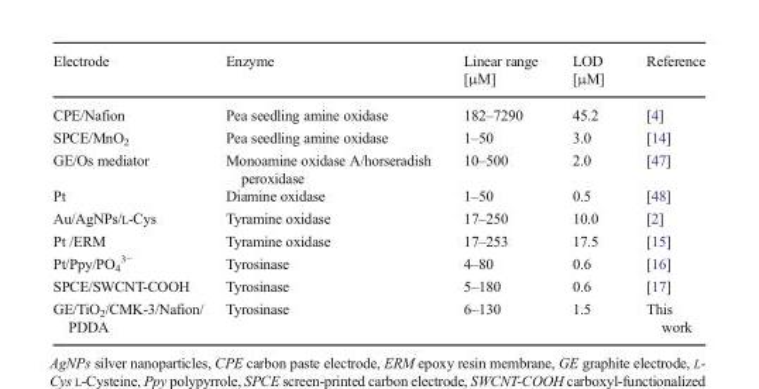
<table><thead><tr><td>Electrode</td><td>Enzyme</td><td>Linear range [μM]</td><td>LOD [μM]</td><td>Reference</td></tr></thead><tbody><tr><td>CPE/Nafion</td><td>Pea seedling amine oxidase</td><td>182–7290</td><td>45.2</td><td>[4]</td></tr><tr><td>SPCE/MnO<sub>2</sub></td><td>Pea seedling amine oxidase</td><td>1–50</td><td>3.0</td><td>[14]</td></tr><tr><td>GE/Os mediator</td><td>Monoamine oxidase A/horseradish peroxidase</td><td>10–500</td><td>2.0</td><td>[47]</td></tr><tr><td>Pt</td><td>Diamine oxidase</td><td>1–50</td><td>0.5</td><td>[48]</td></tr><tr><td>Au/AgNPs/L-Cys</td><td>Tyramine oxidase</td><td>17–250</td><td>10.0</td><td>[2]</td></tr><tr><td>Pt /ERM</td><td>Tyramine oxidase</td><td>17–253</td><td>17.5</td><td>[15]</td></tr><tr><td>Pt/Ppy/PO<sub>4</sub> <sup>3−</sup></td><td>Tyrosinase</td><td>4–80</td><td>0.6</td><td>[16]</td></tr><tr><td>SPCE/SWCNT-COOH</td><td>Tyrosinase</td><td>5–180</td><td>0.6</td><td>[17]</td></tr><tr><td>GE/TiO<sub>2</sub>/CMK-3/Nafion/ PDDA</td><td>Tyrosinase</td><td>6–130</td><td>1.5</td><td>This work</td></tr></tbody></table>